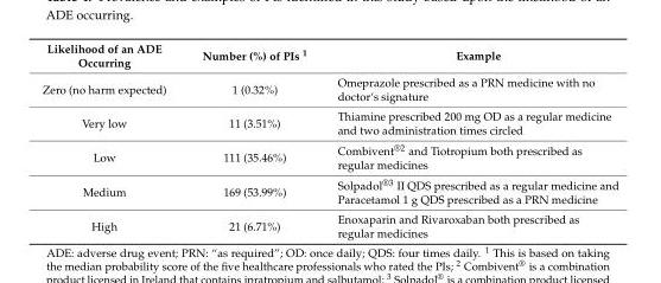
<table><thead><tr><td>Likelihood of an ADE Occurring</td><td>Number (%) of PIs <sup>1</sup></td><td>Example</td></tr></thead><tbody><tr><td>Zero (no harm expected)</td><td>1 (0.32%)</td><td>Omeprazole prescribed as a PRN medicine with no doctor‘s signature</td></tr><tr><td>Very low</td><td>11 (3.51%)</td><td>Thiamine prescribed 200 mg OD as a regular medicine and two administration times circled</td></tr><tr><td>Low</td><td>111 (35.46%)</td><td>Combivent<sup>®2</sup> and Tiotropium both prescribed as regular medicines</td></tr><tr><td>Medium</td><td>169 (53.99%)</td><td>Solpadol<sup>®3</sup> II QDS prescribed as a regular medicine and Paracetamol 1 g QDS prescribed as a PRN medicine</td></tr><tr><td>High</td><td>21 (6.71%)</td><td>Enoxaparin and Rivaroxaban both prescribed as regular medicines</td></tr></tbody></table>